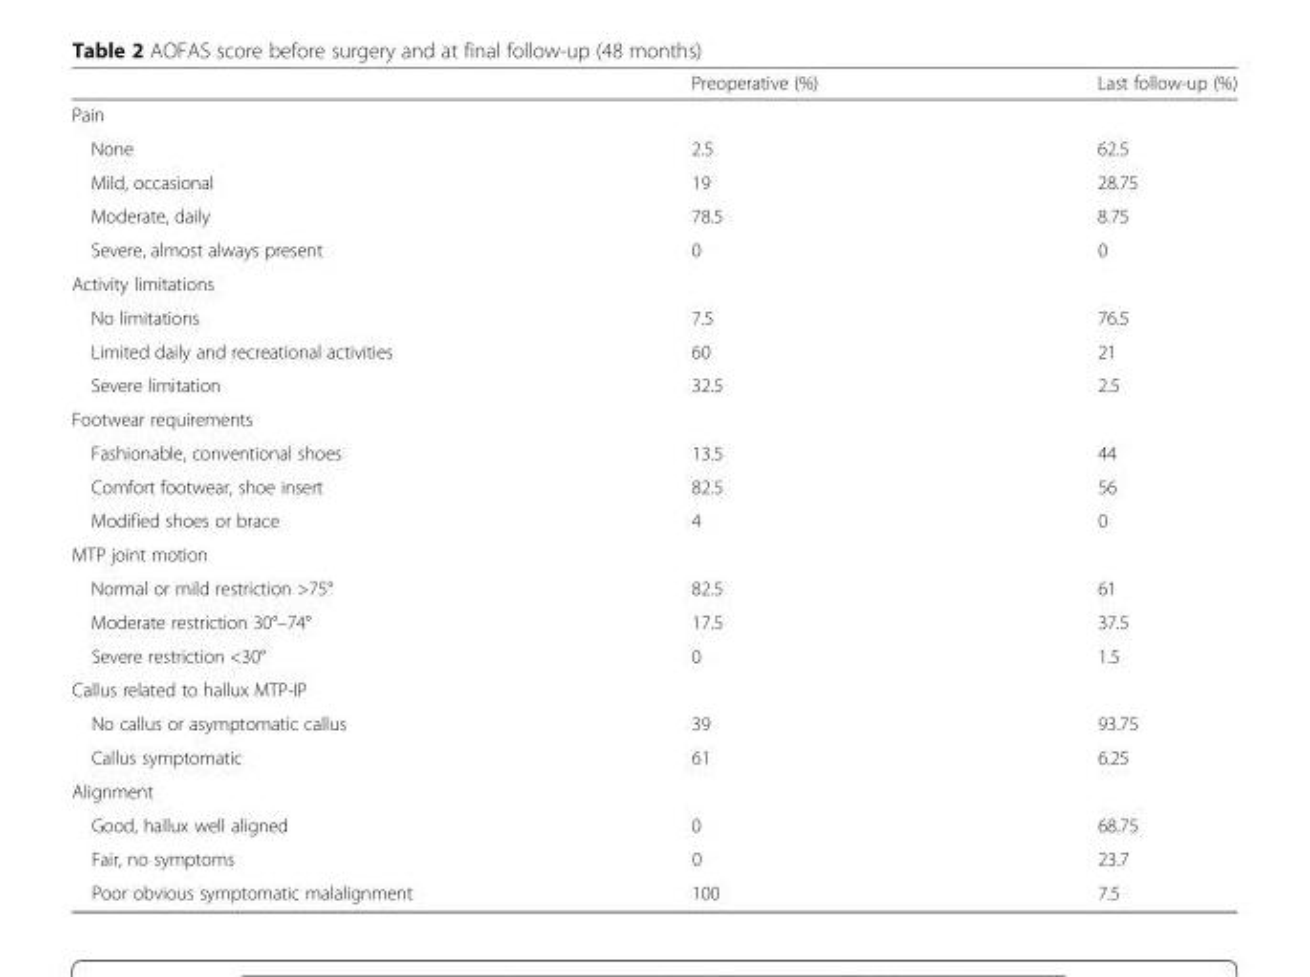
<table><thead><tr><td></td><td>Preoperative (%)</td><td>Last follow-up (%)</td></tr></thead><tbody><tr><td colspan="3">Pain</td></tr><tr><td>None</td><td>2.5</td><td>62.5</td></tr><tr><td>Mild, occasional</td><td>19</td><td>28.75</td></tr><tr><td>Moderate, daily</td><td>78.5</td><td>8.75</td></tr><tr><td>Severe, almost always present</td><td>0</td><td>0</td></tr><tr><td colspan="3">Activity limitations</td></tr><tr><td>No limitations</td><td>7.5</td><td>76.5</td></tr><tr><td>Limited daily and recreational activities</td><td>60</td><td>21</td></tr><tr><td>Severe limitation</td><td>32.5</td><td>2.5</td></tr><tr><td colspan="3">Footwear requirements</td></tr><tr><td>Fashionable, conventional shoes</td><td>13.5</td><td>44</td></tr><tr><td>Comfort footwear, shoe insert</td><td>82.5</td><td>56</td></tr><tr><td>Modified shoes or brace</td><td>4</td><td>0</td></tr><tr><td colspan="3">MTP joint motion</td></tr><tr><td>Normal or mild restriction &gt;75°</td><td>82.5</td><td>61</td></tr><tr><td>Moderate restriction 30°–74°</td><td>17.5</td><td>37.5</td></tr><tr><td>Severe restriction &lt;30°</td><td>0</td><td>1.5</td></tr><tr><td colspan="3">Callus related to hallux MTP-IP</td></tr><tr><td>No callus or asymptomatic callus</td><td>39</td><td>93.75</td></tr><tr><td>Callus symptomatic</td><td>61</td><td>6.25</td></tr><tr><td colspan="3">Alignment</td></tr><tr><td>Good, hallux well aligned</td><td>0</td><td>68.75</td></tr><tr><td>Fair, no symptoms</td><td>0</td><td>23.7</td></tr><tr><td>Poor obvious symptomatic malalignment</td><td>100</td><td>7.5</td></tr></tbody></table>